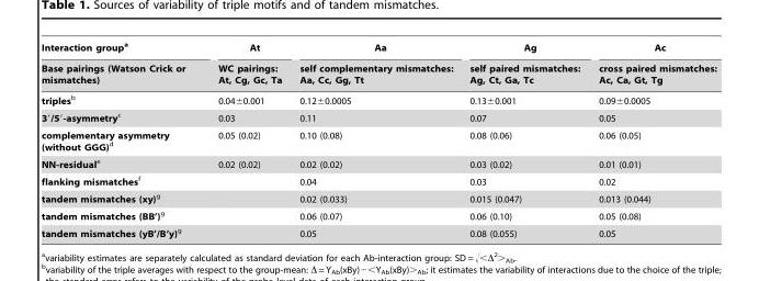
<table><thead><tr><td rowspan="2">Interaction group<sup>a</sup> Base pairings (Watson Crick or mismatches)</td><td rowspan="2">At WC pairings: At, Cg, Gc, Ta</td><td rowspan="2">Aa self complementary mismatches: Aa, Cc, Gg, Tt</td><td rowspan="2">Ag self paired mismatches: Ag, Ct, Ga, Tc</td><td rowspan="2">Ac cross paired mismatches: Ac, Ca, Gt, Tg</td></tr><tr></tr></thead><tbody><tr><td>triplesb</td><td>0.04±0.001</td><td>0.12±0.0005</td><td>0.13±0.001</td><td>0.09±0.0005</td></tr><tr><td>3′/5′-asymmetryc</td><td>0.03</td><td>0.11</td><td>0.07</td><td>0.05</td></tr><tr><td>complementary asymmetry (without GGG)d</td><td>0.05 (0.02)</td><td>0.10 (0.08)</td><td>0.08 (0.06)</td><td>0.06 (0.05)</td></tr><tr><td>NN-residuale</td><td>0.02 (0.02)</td><td>0.02 (0.02)</td><td>0.03 (0.02)</td><td>0.01 (0.01)</td></tr><tr><td>flanking mismatchesf</td><td></td><td>0.04</td><td>0.03</td><td>0.02</td></tr><tr><td>tandem mismatches (xy)g</td><td></td><td>0.02 (0.033)</td><td>0.015 (0.047)</td><td>0.013 (0.044)</td></tr><tr><td>tandem mismatches (BB’)g</td><td></td><td>0.06 (0.07)</td><td>0.06 (0.10)</td><td>0.05 (0.08)</td></tr><tr><td>tandem mismatches (yB’/B’y)g</td><td></td><td>0.05</td><td>0.08 (0.055)</td><td>0.05</td></tr></tbody></table>